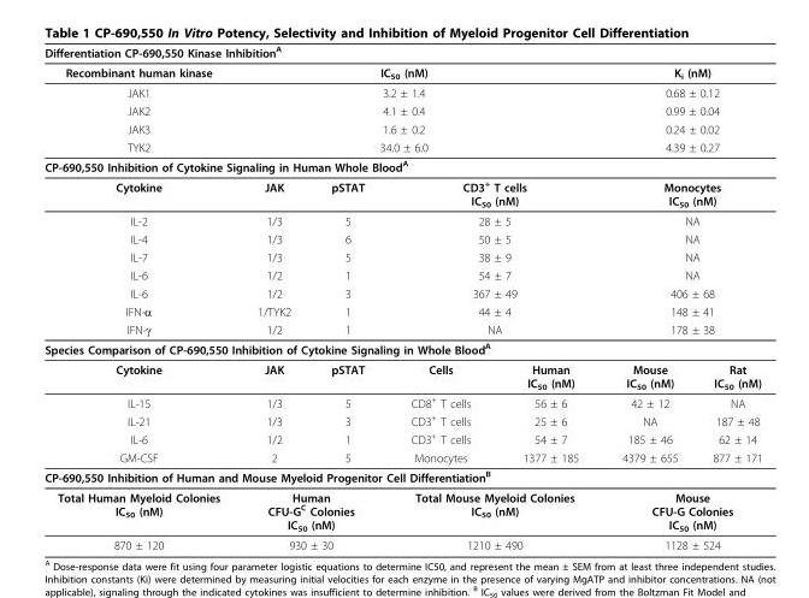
<table><thead><tr><td colspan="7">Differentiation CP-690,550 Kinase Inhibition<sup>A</sup></td></tr></thead><tbody><tr><td>Recombinant human kinase</td><td></td><td colspan="2">IC<sub>50</sub> (nM)</td><td></td><td colspan="2">K<sub>i</sub> (nM)</td></tr><tr><td>JAK1</td><td></td><td colspan="2">3.2 ± 1.4</td><td></td><td colspan="2">0.68 ± 0.12</td></tr><tr><td>JAK2</td><td></td><td colspan="2">4.1 ± 0.4</td><td></td><td colspan="2">0.99 ± 0.04</td></tr><tr><td>JAK3</td><td></td><td colspan="2">1.6 ± 0.2</td><td></td><td colspan="2">0.24 ± 0.02</td></tr><tr><td>TYK2</td><td></td><td colspan="2">34.0 ± 6.0</td><td></td><td colspan="2">4.39 ± 0.27</td></tr><tr><td colspan="7">CP-690,550 Inhibition of Cytokine Signaling in Human Whole Blood<sup>A</sup></td></tr><tr><td>Cytokine</td><td>JAK</td><td>pSTAT</td><td colspan="2">CD3<sup>+</sup> T cells IC<sub>50</sub> (nM)</td><td colspan="2">Monocytes IC<sub>50</sub> (nM)</td></tr><tr><td>IL-2</td><td>1/3</td><td>5</td><td colspan="2">28 ± 5</td><td colspan="2">NA</td></tr><tr><td>IL-4</td><td>1/3</td><td>6</td><td colspan="2">50 ± 5</td><td colspan="2">NA</td></tr><tr><td>IL-7</td><td>1/3</td><td>5</td><td colspan="2">38 ± 9</td><td colspan="2">NA</td></tr><tr><td>IL-6</td><td>1/2</td><td>1</td><td colspan="2">54 ± 7</td><td colspan="2">NA</td></tr><tr><td>IL-6</td><td>1/2</td><td>3</td><td colspan="2">367 ± 49</td><td colspan="2">406 ± 68</td></tr><tr><td>IFN-α</td><td>1/TYK2</td><td>1</td><td colspan="2">44 ± 4</td><td colspan="2">148 ± 41</td></tr><tr><td>IFN-γ</td><td>1/2</td><td>1</td><td colspan="2">NA</td><td colspan="2">178 ± 38</td></tr><tr><td colspan="7">Species Comparison of CP-690,550 Inhibition of Cytokine Signaling in Whole Blood<sup>A</sup></td></tr><tr><td>Cytokine</td><td>JAK</td><td>pSTAT</td><td>Cells</td><td>Human IC<sub>50</sub> (nM)</td><td>Mouse IC<sub>50</sub> (nM)</td><td>Rat IC<sub>50</sub> (nM)</td></tr><tr><td>IL-15</td><td>1/3</td><td>5</td><td>CD8<sup>+</sup> T cells</td><td>56 ± 6</td><td>42 ± 12</td><td>NA</td></tr><tr><td>IL-21</td><td>1/3</td><td>3</td><td>CD3<sup>+</sup> T cells</td><td>25 ± 6</td><td>NA</td><td>187 ± 48</td></tr><tr><td>IL-6</td><td>1/2</td><td>1</td><td>CD3<sup>+</sup> T cells</td><td>54 ± 7</td><td>185 ± 46</td><td>62 ± 14</td></tr><tr><td>GM-CSF</td><td>2</td><td>5</td><td>Monocytes</td><td>1377 ± 185</td><td>4379 ± 655</td><td>877 ± 171</td></tr><tr><td colspan="7">CP-690,550 Inhibition of Human and Mouse Myeloid Progenitor Cell Differentiation<sup>B</sup></td></tr><tr><td>Total Human Myeloid Colonies IC<sub>50</sub> (nM)</td><td colspan="2">Human CFU-G<sup>C</sup> Colonies IC<sub>50</sub> (nM)</td><td colspan="2">Total Mouse Myeloid Colonies IC<sub>50</sub> (nM)</td><td colspan="2">Mouse CFU-G Colonies IC<sub>50</sub> (nM)</td></tr><tr><td>870 ± 120</td><td colspan="2">930 ± 30</td><td colspan="2">1210 ± 490</td><td colspan="2">1128 ± 524</td></tr></tbody></table>